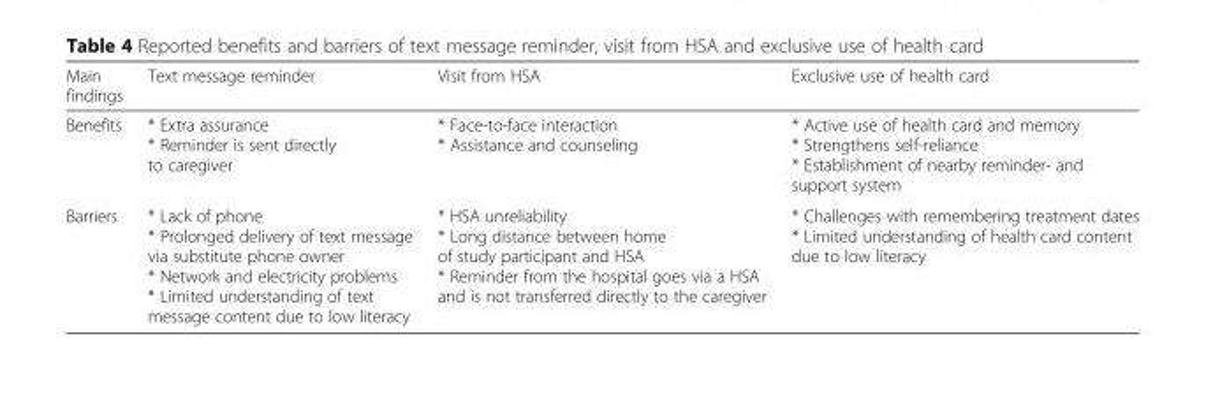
<table><thead><tr><td>Main findings</td><td>Text message reminder</td><td>Visit from HSA</td><td>Exclusive use of health card</td></tr></thead><tbody><tr><td>Benefits</td><td>* Extra assurance * Reminder is sent directly to caregiver</td><td>* Face-to-face interaction * Assistance and counseling</td><td>* Active use of health card and memory * Strengthens self-reliance * Establishment of nearby reminder- and support system</td></tr><tr><td>Barriers</td><td>* Lack of phone * Prolonged delivery of text message via substitute phone owner * Network and electricity problems * Limited understanding of text message content due to low literacy</td><td>* HSA unreliability * Long distance between home of study participant and HSA * Reminder from the hospital goes via a HSA and is not transferred directly to the caregiver</td><td>* Challenges with remembering treatment dates * Limited understanding of health card content due to low literacy</td></tr></tbody></table>